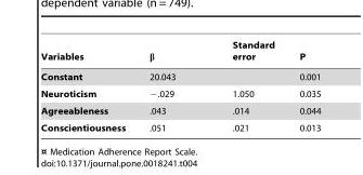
<table><thead><tr><td>Variables</td><td>β</td><td>Standard error</td><td>P</td></tr></thead><tbody><tr><td>Constant</td><td>20.043</td><td></td><td>0.001</td></tr><tr><td>Neuroticism</td><td>−.029</td><td>1.050</td><td>0.035</td></tr><tr><td>Agreeableness</td><td>.043</td><td>.014</td><td>0.044</td></tr><tr><td>Conscientiousness</td><td>.051</td><td>.021</td><td>0.013</td></tr></tbody></table>